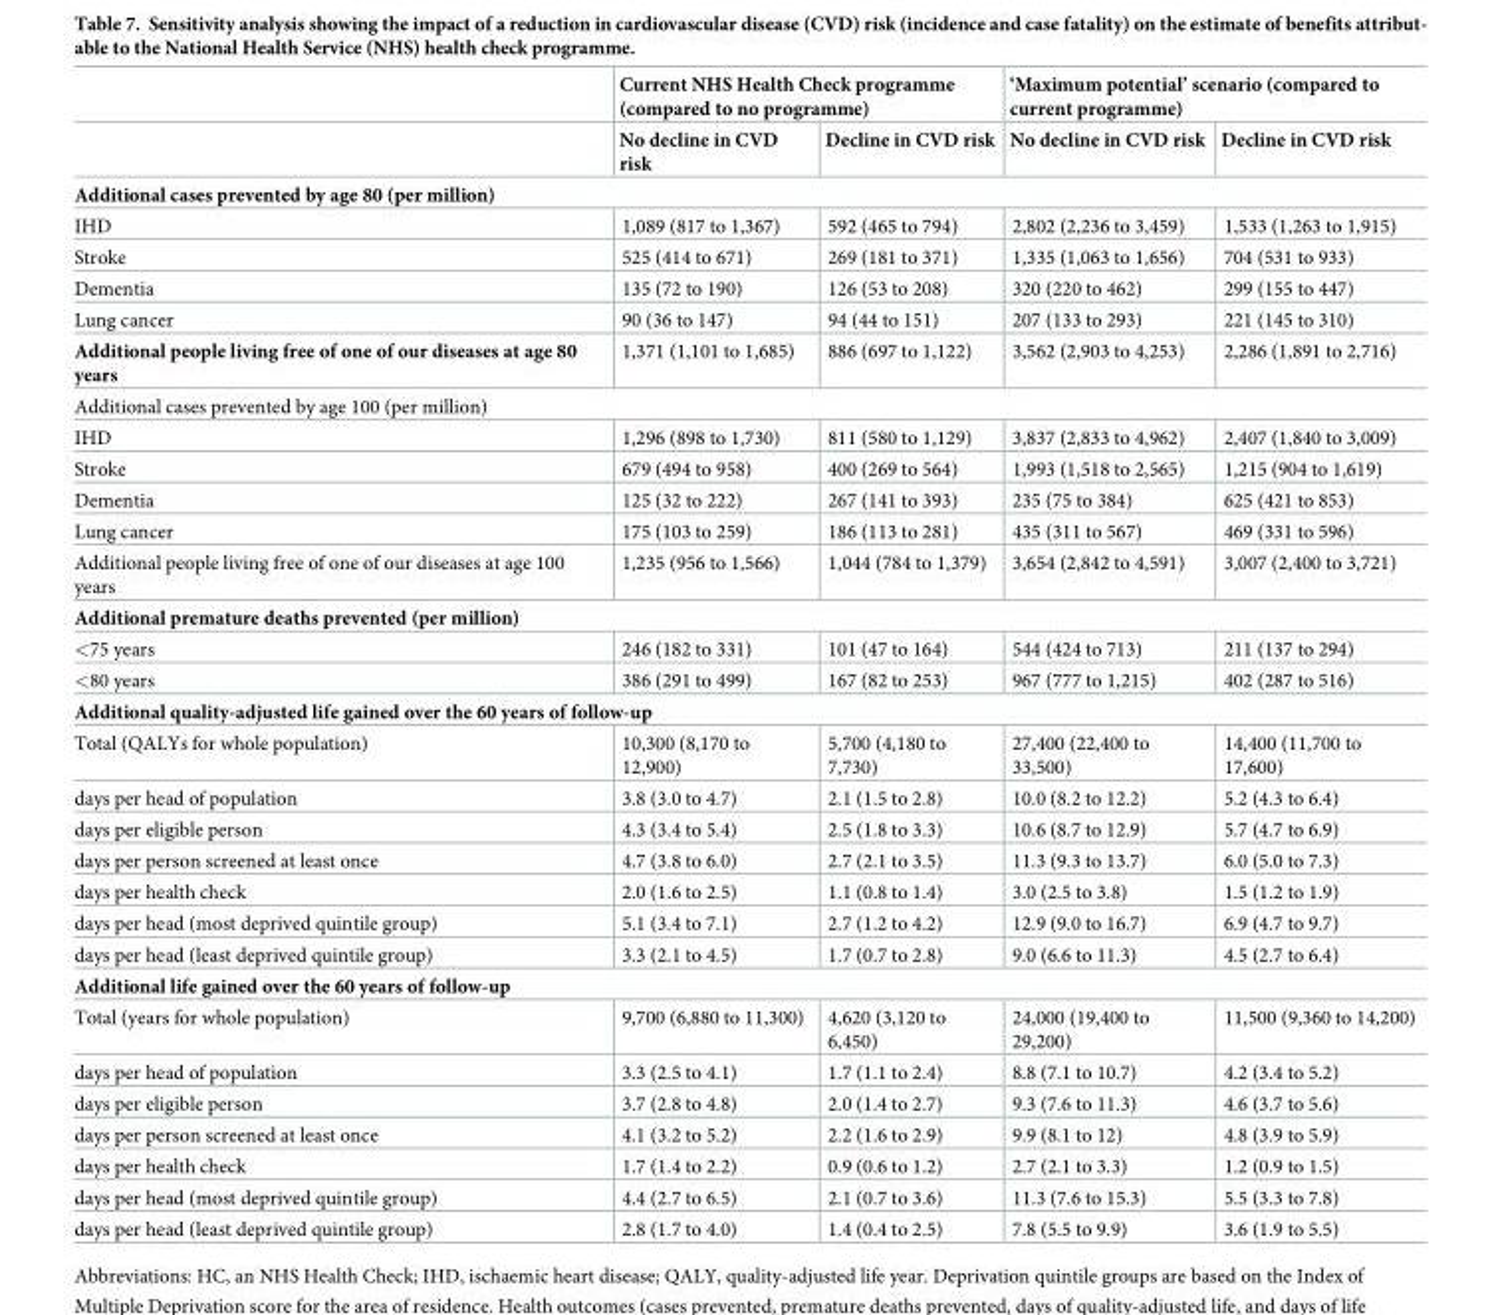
<table><thead><tr><td rowspan="2"></td><td colspan="2">Current NHS Health Check programme (compared to no programme)</td><td colspan="2">‘Maximum potential’ scenario (compared to current programme)</td></tr><tr><td>No decline in CVD risk</td><td>Decline in CVD risk</td><td>No decline in CVD risk</td><td>Decline in CVD risk</td></tr></thead><tbody><tr><td colspan="5">Additional cases prevented by age 80 (per million)</td></tr><tr><td>IHD</td><td>1,089 (817 to 1,367)</td><td>592 (465 to 794)</td><td>2,802 (2,236 to 3,459)</td><td>1,533 (1,263 to 1,915)</td></tr><tr><td>Stroke</td><td>525 (414 to 671)</td><td>269 (181 to 371)</td><td>1,335 (1,063 to 1,656)</td><td>704 (531 to 933)</td></tr><tr><td>Dementia</td><td>135 (72 to 190)</td><td>126 (53 to 208)</td><td>320 (220 to 462)</td><td>299 (155 to 447)</td></tr><tr><td>Lung cancer</td><td>90 (36 to 147)</td><td>94 (44 to 151)</td><td>207 (133 to 293)</td><td>221 (145 to 310)</td></tr><tr><td>Additional people living free of one of our diseases at age 80 years</td><td>1,371 (1,101 to 1,685)</td><td>886 (697 to 1,122)</td><td>3,562 (2,903 to 4,253)</td><td>2,286 (1,891 to 2,716)</td></tr><tr><td colspan="5">Additional cases prevented by age 100 (per million)</td></tr><tr><td>IHD</td><td>1,296 (898 to 1,730)</td><td>811 (580 to 1,129)</td><td>3,837 (2,833 to 4,962)</td><td>2,407 (1,840 to 3,009)</td></tr><tr><td>Stroke</td><td>679 (494 to 958)</td><td>400 (269 to 564)</td><td>1,993 (1,518 to 2,565)</td><td>1,215 (904 to 1,619)</td></tr><tr><td>Dementia</td><td>125 (32 to 222)</td><td>267 (141 to 393)</td><td>235 (75 to 384)</td><td>625 (421 to 853)</td></tr><tr><td>Lung cancer</td><td>175 (103 to 259)</td><td>186 (113 to 281)</td><td>435 (311 to 567)</td><td>469 (331 to 596)</td></tr><tr><td>Additional people living free of one of our diseases at age 100 years</td><td>1,235 (956 to 1,566)</td><td>1,044 (784 to 1,379)</td><td>3,654 (2,842 to 4,591)</td><td>3,007 (2,400 to 3,721)</td></tr><tr><td colspan="5">Additional premature deaths prevented (per million)</td></tr><tr><td>&lt;75 years</td><td>246 (182 to 331)</td><td>101 (47 to 164)</td><td>544 (424 to 713)</td><td>211 (137 to 294)</td></tr><tr><td>&lt;80 years</td><td>386 (291 to 499)</td><td>167 (82 to 253)</td><td>967 (777 to 1,215)</td><td>402 (287 to 516)</td></tr><tr><td colspan="5">Additional quality-adjusted life gained over the 60 years of follow-up</td></tr><tr><td>Total (QALYs for whole population)</td><td>10,300 (8,170 to 12,900)</td><td>5,700 (4,180 to 7,730)</td><td>27,400 (22,400 to 33,500)</td><td>14,400 (11,700 to 17,600)</td></tr><tr><td>days per head of population</td><td>3.8 (3.0 to 4.7)</td><td>2.1 (1.5 to 2.8)</td><td>10.0 (8.2 to 12.2)</td><td>5.2 (4.3 to 6.4)</td></tr><tr><td>days per eligible person</td><td>4.3 (3.4 to 5.4)</td><td>2.5 (1.8 to 3.3)</td><td>10.6 (8.7 to 12.9)</td><td>5.7 (4.7 to 6.9)</td></tr><tr><td>days per person screened at least once</td><td>4.7 (3.8 to 6.0)</td><td>2.7 (2.1 to 3.5)</td><td>11.3 (9.3 to 13.7)</td><td>6.0 (5.0 to 7.3)</td></tr><tr><td>days per health check</td><td>2.0 (1.6 to 2.5)</td><td>1.1 (0.8 to 1.4)</td><td>3.0 (2.5 to 3.8)</td><td>1.5 (1.2 to 1.9)</td></tr><tr><td>days per head (most deprived quintile group)</td><td>5.1 (3.4 to 7.1)</td><td>2.7 (1.2 to 4.2)</td><td>12.9 (9.0 to 16.7)</td><td>6.9 (4.7 to 9.7)</td></tr><tr><td>days per head (least deprived quintile group)</td><td>3.3 (2.1 to 4.5)</td><td>1.7 (0.7 to 2.8)</td><td>9.0 (6.6 to 11.3)</td><td>4.5 (2.7 to 6.4)</td></tr><tr><td colspan="5">Additional life gained over the 60 years of follow-up</td></tr><tr><td>Total (years for whole population)</td><td>9,700 (6,880 to 11,300)</td><td>4,620 (3,120 to 6,450)</td><td>24,000 (19,400 to 29,200)</td><td>11,500 (9,360 to 14,200)</td></tr><tr><td>days per head of population</td><td>3.3 (2.5 to 4.1)</td><td>1.7 (1.1 to 2.4)</td><td>8.8 (7.1 to 10.7)</td><td>4.2 (3.4 to 5.2)</td></tr><tr><td>days per eligible person</td><td>3.7 (2.8 to 4.8)</td><td>2.0 (1.4 to 2.7)</td><td>9.3 (7.6 to 11.3)</td><td>4.6 (3.7 to 5.6)</td></tr><tr><td>days per person screened at least once</td><td>4.1 (3.2 to 5.2)</td><td>2.2 (1.6 to 2.9)</td><td>9.9 (8.1 to 12)</td><td>4.8 (3.9 to 5.9)</td></tr><tr><td>days per health check</td><td>1.7 (1.4 to 2.2)</td><td>0.9 (0.6 to 1.2)</td><td>2.7 (2.1 to 3.3)</td><td>1.2 (0.9 to 1.5)</td></tr><tr><td>days per head (most deprived quintile group)</td><td>4.4 (2.7 to 6.5)</td><td>2.1 (0.7 to 3.6)</td><td>11.3 (7.6 to 15.3)</td><td>5.5 (3.3 to 7.8)</td></tr><tr><td>days per head (least deprived quintile group)</td><td>2.8 (1.7 to 4.0)</td><td>1.4 (0.4 to 2.5)</td><td>7.8 (5.5 to 9.9)</td><td>3.6 (1.9 to 5.5)</td></tr></tbody></table>